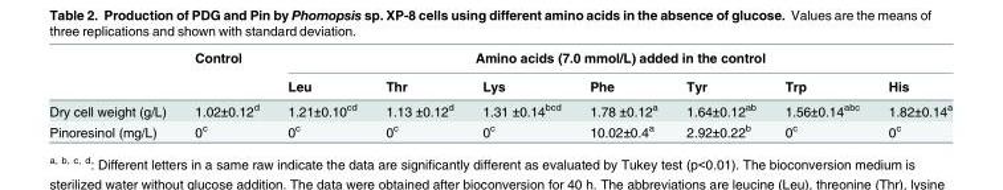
<table><thead><tr><td rowspan="2"></td><td rowspan="2">Control</td><td colspan="7">Amino acids (7.0 mmol/L) added in the control</td></tr><tr><td>Leu</td><td>Thr</td><td>Lys</td><td>Phe</td><td>Tyr</td><td>Trp</td><td>His</td></tr></thead><tbody><tr><td>Dry cell weight (g/L)</td><td>1.02±0.12<sup>d</sup></td><td>1.21±0.10<sup>cd</sup></td><td>1.13 ±0.12<sup>d</sup></td><td>1.31 ±0.14<sup>bcd</sup></td><td>1.78 ±0.12<sup>a</sup></td><td>1.64±0.12<sup>ab</sup></td><td>1.56±0.14<sup>abc</sup></td><td>1.82±0.14<sup>a</sup></td></tr><tr><td>Pinoresinol (mg/L)</td><td>0<sup>c</sup></td><td>0<sup>c</sup></td><td>0<sup>c</sup></td><td>0<sup>c</sup></td><td>10.02±0.4<sup>a</sup></td><td>2.92±0.22<sup>b</sup></td><td>0<sup>c</sup></td><td>0<sup>c</sup></td></tr></tbody></table>